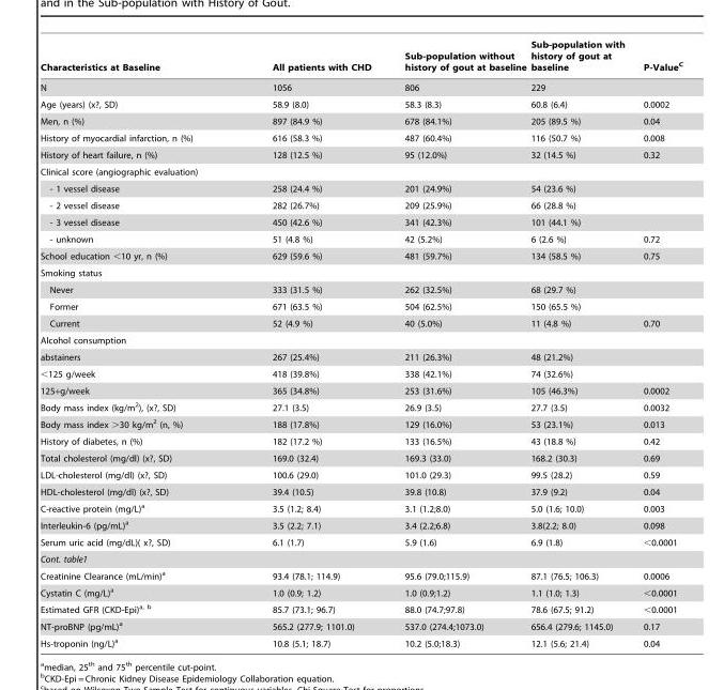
<table><thead><tr><td>Characteristics at Baseline</td><td>All patients with CHD</td><td>Sub-population without history of gout at baseline</td><td>Sub-population with history of gout at baseline</td><td>P-Value<sup>C</sup></td></tr></thead><tbody><tr><td>N</td><td>1056</td><td>806</td><td>229</td><td></td></tr><tr><td>Age (years) (x?, SD)</td><td>58.9 (8.0)</td><td>58.3 (8.3)</td><td>60.8 (6.4)</td><td>0.0002</td></tr><tr><td>Men, n (%)</td><td>897 (84.9 %)</td><td>678 (84.1%)</td><td>205 (89.5 %)</td><td>0.04</td></tr><tr><td>History of myocardial infarction, n (%)</td><td>616 (58.3 %)</td><td>487 (60.4%)</td><td>116 (50.7 %)</td><td>0.008</td></tr><tr><td>History of heart failure, n (%)</td><td>128 (12.5 %)</td><td>95 (12.0%)</td><td>32 (14.5 %)</td><td>0.32</td></tr><tr><td colspan="5">Clinical score (angiographic evaluation)</td></tr><tr><td>- 1 vessel disease</td><td>258 (24.4 %)</td><td>201 (24.9%)</td><td>54 (23.6 %)</td><td></td></tr><tr><td>- 2 vessel disease</td><td>282 (26.7%)</td><td>209 (25.9%)</td><td>66 (28.8 %)</td><td></td></tr><tr><td>- 3 vessel disease</td><td>450 (42.6 %)</td><td>341 (42.3%)</td><td>101 (44.1 %)</td><td></td></tr><tr><td>- unknown</td><td>51 (4.8 %)</td><td>42 (5.2%)</td><td>6 (2.6 %)</td><td>0.72</td></tr><tr><td>School education &lt;10 yr, n (%)</td><td>629 (59.6 %)</td><td>481 (59.7%)</td><td>134 (58.5 %)</td><td>0.75</td></tr><tr><td colspan="5">Smoking status</td></tr><tr><td>Never</td><td>333 (31.5 %)</td><td>262 (32.5%)</td><td>68 (29.7 %)</td><td></td></tr><tr><td>Former</td><td>671 (63.5 %)</td><td>504 (62.5%)</td><td>150 (65.5 %)</td><td></td></tr><tr><td>Current</td><td>52 (4.9 %)</td><td>40 (5.0%)</td><td>11 (4.8 %)</td><td>0.70</td></tr><tr><td colspan="5">Alcohol consumption</td></tr><tr><td>abstainers</td><td>267 (25.4%)</td><td>211 (26.3%)</td><td>48 (21.2%)</td><td></td></tr><tr><td>&lt;125 g/week</td><td>418 (39.8%)</td><td>338 (42.1%)</td><td>74 (32.6%)</td><td></td></tr><tr><td>125+g/week</td><td>365 (34.8%)</td><td>253 (31.6%)</td><td>105 (46.3%)</td><td>0.0002</td></tr><tr><td>Body mass index (kg/m<sup>2</sup>), (x?, SD)</td><td>27.1 (3.5)</td><td>26.9 (3.5)</td><td>27.7 (3.5)</td><td>0.0032</td></tr><tr><td>Body mass index &gt;30 kg/m<sup>2</sup> (n, %)</td><td>188 (17.8%)</td><td>129 (16.0%)</td><td>53 (23.1%)</td><td>0.013</td></tr><tr><td>History of diabetes, n (%)</td><td>182 (17.2 %)</td><td>133 (16.5%)</td><td>43 (18.8 %)</td><td>0.42</td></tr><tr><td>Total cholesterol (mg/dl) (x?, SD)</td><td>169.0 (32.4)</td><td>169.3 (33.0)</td><td>168.2 (30.3)</td><td>0.69</td></tr><tr><td>LDL-cholesterol (mg/dl) (x?, SD)</td><td>100.6 (29.0)</td><td>101.0 (29.3)</td><td>99.5 (28.2)</td><td>0.59</td></tr><tr><td>HDL-cholesterol (mg/dl) (x?, SD)</td><td>39.4 (10.5)</td><td>39.8 (10.8)</td><td>37.9 (9.2)</td><td>0.04</td></tr><tr><td>C-reactive protein (mg/L)<sup>a</sup></td><td>3.5 (1.2; 8.4)</td><td>3.1 (1.2;8.0)</td><td>5.0 (1.6; 10.0)</td><td>0.003</td></tr><tr><td>Interleukin-6 (pg/mL)<sup>a</sup></td><td>3.5 (2.2; 7.1)</td><td>3.4 (2.2;6.8)</td><td>3.8(2.2; 8.0)</td><td>0.098</td></tr><tr><td>Serum uric acid (mg/dL)( x?, SD)</td><td>6.1 (1.7)</td><td>5.9 (1.6)</td><td>6.9 (1.8)</td><td>&lt;0.0001</td></tr><tr><td colspan="5">Cont. table1</td></tr><tr><td>Creatinine Clearance (mL/min)<sup>a</sup></td><td>93.4 (78.1; 114.9)</td><td>95.6 (79.0;115.9)</td><td>87.1 (76.5; 106.3)</td><td>0.0006</td></tr><tr><td>Cystatin C (mg/L)<sup>a</sup></td><td>1.0 (0.9; 1.2)</td><td>1.0 (0.9;1.2)</td><td>1.1 (1.0; 1.3)</td><td>&lt;0.0001</td></tr><tr><td>Estimated GFR (CKD-Epi)a, b</td><td>85.7 (73.1; 96.7)</td><td>88.0 (74.7;97.8)</td><td>78.6 (67.5; 91.2)</td><td>&lt;0.0001</td></tr><tr><td>NT-proBNP (pg/mL)<sup>a</sup></td><td>565.2 (277.9; 1101.0)</td><td>537.0 (274.4;1073.0)</td><td>656.4 (279.6; 1145.0)</td><td>0.17</td></tr><tr><td>Hs-troponin (ng/L)<sup>a</sup></td><td>10.8 (5.1; 18.7)</td><td>10.2 (5.0;18.3)</td><td>12.1 (5.6; 21.4)</td><td>0.04</td></tr></tbody></table>